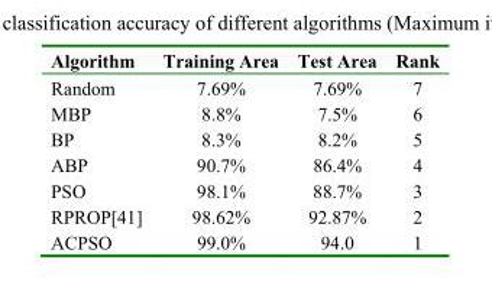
<table><thead><tr><td>Algorithm</td><td>Training Area</td><td>Test Area</td><td>Rank</td></tr></thead><tbody><tr><td>Random</td><td>7.69%</td><td>7.69%</td><td>7</td></tr><tr><td>MBP</td><td>8.8%</td><td>7.5%</td><td>6</td></tr><tr><td>BP</td><td>8.3%</td><td>8.2%</td><td>5</td></tr><tr><td>ABP</td><td>90.7%</td><td>86.4%</td><td>4</td></tr><tr><td>PSO</td><td>98.1%</td><td>88.7%</td><td>3</td></tr><tr><td>RPROP[41]</td><td>98.62%</td><td>92.87%</td><td>2</td></tr><tr><td>ACPSO</td><td>99.0%</td><td>94.0</td><td>1</td></tr></tbody></table>